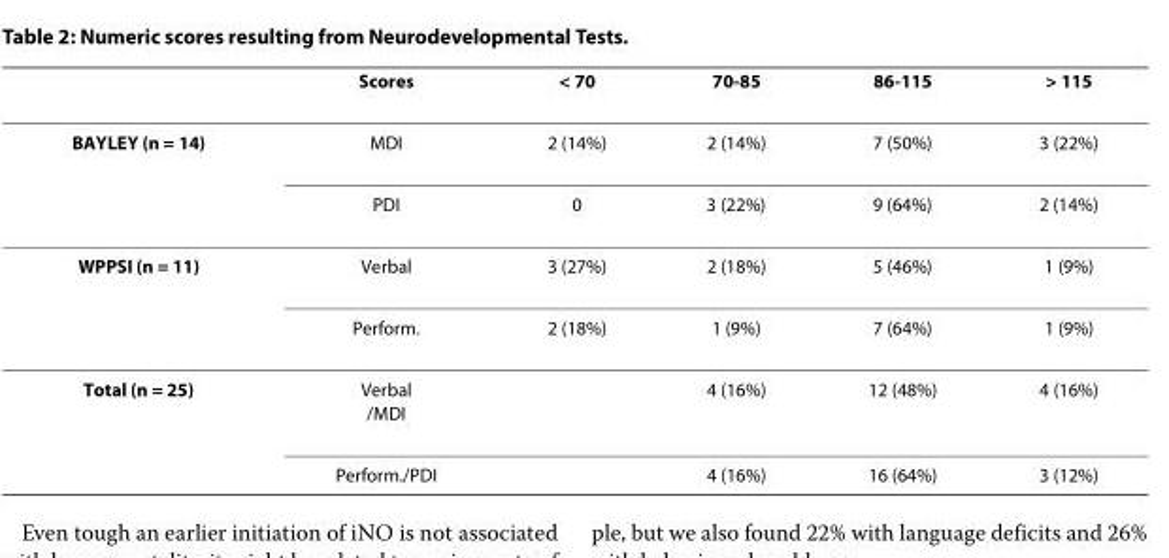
<table><thead><tr><td></td><td>Scores</td><td>&lt; 70</td><td>70-85</td><td>86-115</td><td>&gt; 115</td></tr></thead><tbody><tr><td rowspan="2">BAYLEY (n = 14)</td><td>MDI</td><td>2 (14%)</td><td>2 (14%)</td><td>7 (50%)</td><td>3 (22%)</td></tr><tr><td>PDI</td><td>0</td><td>3 (22%)</td><td>9 (64%)</td><td>2 (14%)</td></tr><tr><td rowspan="2">WPPSI (n = 11)</td><td>Verbal</td><td>3 (27%)</td><td>2 (18%)</td><td>5 (46%)</td><td>1 (9%)</td></tr><tr><td>Perform.</td><td>2 (18%)</td><td>1 (9%)</td><td>7 (64%)</td><td>1 (9%)</td></tr><tr><td rowspan="2">Total (n = 25)</td><td>Verbal /MDI</td><td></td><td>4 (16%)</td><td>12 (48%)</td><td>4 (16%)</td></tr><tr><td>Perform./PDI</td><td></td><td>4 (16%)</td><td>16 (64%)</td><td>3 (12%)</td></tr></tbody></table>